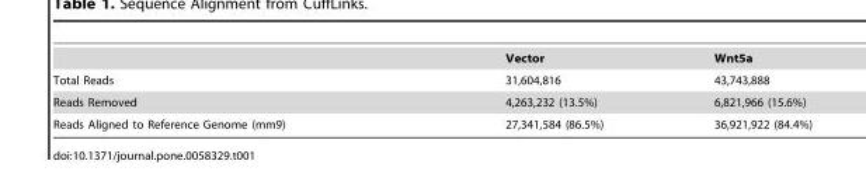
<table><thead><tr><td></td><td>Vector</td><td>Wnt5a</td></tr></thead><tbody><tr><td>Total Reads</td><td>31,604,816</td><td>43,743,888</td></tr><tr><td>Reads Removed</td><td>4,263,232 (13.5%)</td><td>6,821,966 (15.6%)</td></tr><tr><td>Reads Aligned to Reference Genome (mm9)</td><td>27,341,584 (86.5%)</td><td>36,921,922 (84.4%)</td></tr></tbody></table>